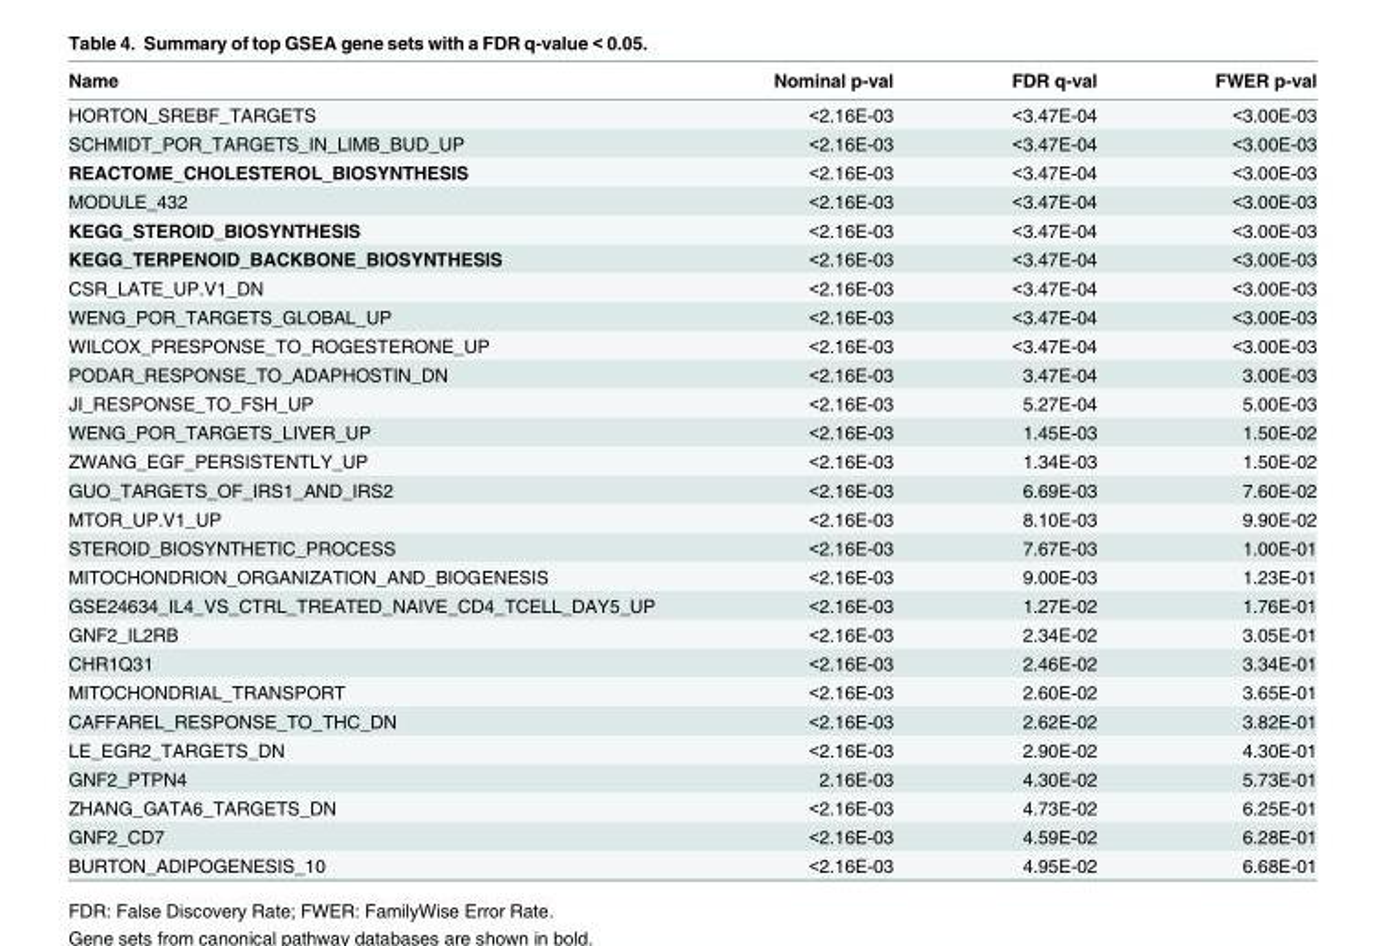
<table><thead><tr><td>Name</td><td>Nominal p-val</td><td>FDR q-val</td><td>FWER p-val</td></tr></thead><tbody><tr><td>HORTON_SREBF_TARGETS</td><td>&lt;2.16E-03</td><td>&lt;3.47E-04</td><td>&lt;3.00E-03</td></tr><tr><td>SCHMIDT_POR_TARGETS_IN_LIMB_BUD_UP</td><td>&lt;2.16E-03</td><td>&lt;3.47E-04</td><td>&lt;3.00E-03</td></tr><tr><td>REACTOME_CHOLESTEROL_BIOSYNTHESIS</td><td>&lt;2.16E-03</td><td>&lt;3.47E-04</td><td>&lt;3.00E-03</td></tr><tr><td>MODULE_432</td><td>&lt;2.16E-03</td><td>&lt;3.47E-04</td><td>&lt;3.00E-03</td></tr><tr><td>KEGG_STEROID_BIOSYNTHESIS</td><td>&lt;2.16E-03</td><td>&lt;3.47E-04</td><td>&lt;3.00E-03</td></tr><tr><td>KEGG_TERPENOID_BACKBONE_BIOSYNTHESIS</td><td>&lt;2.16E-03</td><td>&lt;3.47E-04</td><td>&lt;3.00E-03</td></tr><tr><td>CSR_LATE_UP.V1_DN</td><td>&lt;2.16E-03</td><td>&lt;3.47E-04</td><td>&lt;3.00E-03</td></tr><tr><td>WENG_POR_TARGETS_GLOBAL_UP</td><td>&lt;2.16E-03</td><td>&lt;3.47E-04</td><td>&lt;3.00E-03</td></tr><tr><td>WILCOX_PRESPONSE_TO_ROGESTERONE_UP</td><td>&lt;2.16E-03</td><td>&lt;3.47E-04</td><td>&lt;3.00E-03</td></tr><tr><td>PODAR_RESPONSE_TO_ADAPHOSTIN_DN</td><td>&lt;2.16E-03</td><td>3.47E-04</td><td>3.00E-03</td></tr><tr><td>JI_RESPONSE_TO_FSH_UP</td><td>&lt;2.16E-03</td><td>5.27E-04</td><td>5.00E-03</td></tr><tr><td>WENG_POR_TARGETS_LIVER_UP</td><td>&lt;2.16E-03</td><td>1.45E-03</td><td>1.50E-02</td></tr><tr><td>ZWANG_EGF_PERSISTENTLY_UP</td><td>&lt;2.16E-03</td><td>1.34E-03</td><td>1.50E-02</td></tr><tr><td>GUO_TARGETS_OF_IRS1_AND_IRS2</td><td>&lt;2.16E-03</td><td>6.69E-03</td><td>7.60E-02</td></tr><tr><td>MTOR_UP.V1_UP</td><td>&lt;2.16E-03</td><td>8.10E-03</td><td>9.90E-02</td></tr><tr><td>STEROID_BIOSYNTHETIC_PROCESS</td><td>&lt;2.16E-03</td><td>7.67E-03</td><td>1.00E-01</td></tr><tr><td>MITOCHONDRION_ORGANIZATION_AND_BIOGENESIS</td><td>&lt;2.16E-03</td><td>9.00E-03</td><td>1.23E-01</td></tr><tr><td>GSE24634_IL4_VS_CTRL_TREATED_NAIVE_CD4_TCELL_DAY5_UP</td><td>&lt;2.16E-03</td><td>1.27E-02</td><td>1.76E-01</td></tr><tr><td>GNF2_IL2RB</td><td>&lt;2.16E-03</td><td>2.34E-02</td><td>3.05E-01</td></tr><tr><td>CHR1Q31</td><td>&lt;2.16E-03</td><td>2.46E-02</td><td>3.34E-01</td></tr><tr><td>MITOCHONDRIAL_TRANSPORT</td><td>&lt;2.16E-03</td><td>2.60E-02</td><td>3.65E-01</td></tr><tr><td>CAFFAREL_RESPONSE_TO_THC_DN</td><td>&lt;2.16E-03</td><td>2.62E-02</td><td>3.82E-01</td></tr><tr><td>LE_EGR2_TARGETS_DN</td><td>&lt;2.16E-03</td><td>2.90E-02</td><td>4.30E-01</td></tr><tr><td>GNF2_PTPN4</td><td>2.16E-03</td><td>4.30E-02</td><td>5.73E-01</td></tr><tr><td>ZHANG_GATA6_TARGETS_DN</td><td>&lt;2.16E-03</td><td>4.73E-02</td><td>6.25E-01</td></tr><tr><td>GNF2_CD7</td><td>&lt;2.16E-03</td><td>4.59E-02</td><td>6.28E-01</td></tr><tr><td>BURTON_ADIPOGENESIS_10</td><td>&lt;2.16E-03</td><td>4.95E-02</td><td>6.68E-01</td></tr></tbody></table>